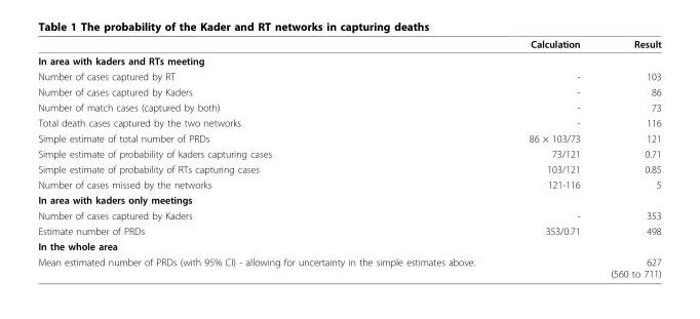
<table><thead><tr><td></td><td>Calculation</td><td>Result</td></tr></thead><tbody><tr><td colspan="3">In area with kaders and RTs meeting</td></tr><tr><td>Number of cases captured by RT</td><td>-</td><td>103</td></tr><tr><td>Number of cases captured by Kaders</td><td>-</td><td>86</td></tr><tr><td>Number of match cases (captured by both)</td><td>-</td><td>73</td></tr><tr><td>Total death cases captured by the two networks</td><td>-</td><td>116</td></tr><tr><td>Simple estimate of total number of PRDs</td><td>86 × 103/73</td><td>121</td></tr><tr><td>Simple estimate of probability of kaders capturing cases</td><td>73/121</td><td>0.71</td></tr><tr><td>Simple estimate of probability of RTs capturing cases</td><td>103/121</td><td>0.85</td></tr><tr><td>Number of cases missed by the networks</td><td>121-116</td><td>5</td></tr><tr><td colspan="3">In area with kaders only meetings</td></tr><tr><td>Number of cases captured by Kaders</td><td>-</td><td>353</td></tr><tr><td>Estimate number of PRDs</td><td>353/0.71</td><td>498</td></tr><tr><td colspan="3">In the whole area</td></tr><tr><td>Mean estimated number of PRDs (with 95% CI) - allowing for uncertainty in the simple estimates above.</td><td></td><td>627 (560 to 711)</td></tr></tbody></table>